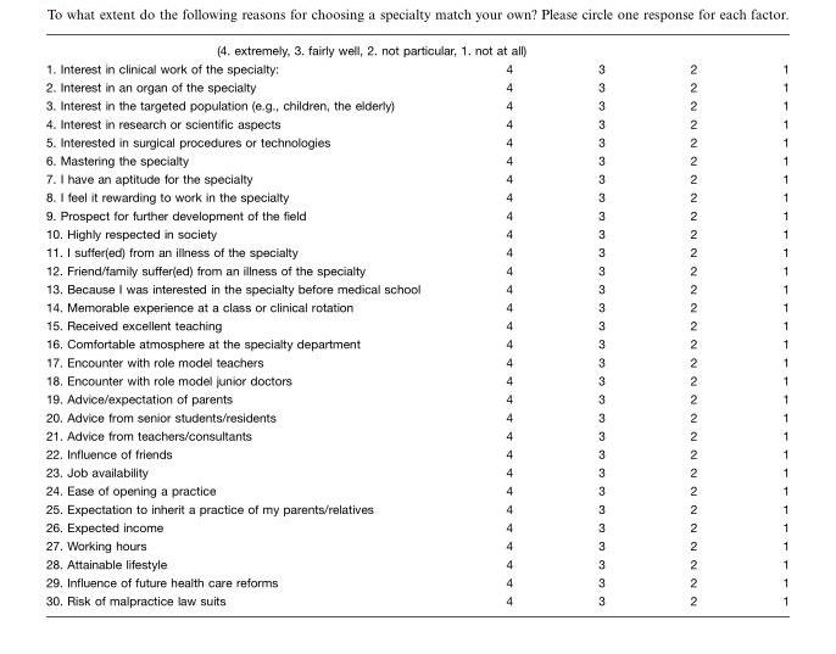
<table><tbody><tr><td colspan="5">(4. extremely, 3. fairly well, 2. not particular, 1. not at all)</td></tr><tr><td>1. Interest in clinical work of the specialty:</td><td>4</td><td>3</td><td>2</td><td>1</td></tr><tr><td>2. Interest in an organ of the specialty</td><td>4</td><td>3</td><td>2</td><td>1</td></tr><tr><td>3. Interest in the targeted population (e.g., children, the elderly)</td><td>4</td><td>3</td><td>2</td><td>1</td></tr><tr><td>4. Interest in research or scientific aspects</td><td>4</td><td>3</td><td>2</td><td>1</td></tr><tr><td>5. Interested in surgical procedures or technologies</td><td>4</td><td>3</td><td>2</td><td>1</td></tr><tr><td>6. Mastering the specialty</td><td>4</td><td>3</td><td>2</td><td>1</td></tr><tr><td>7. I have an aptitude for the specialty</td><td>4</td><td>3</td><td>2</td><td>1</td></tr><tr><td>8. I feel it rewarding to work in the specialty</td><td>4</td><td>3</td><td>2</td><td>1</td></tr><tr><td>9. Prospect for further development of the field</td><td>4</td><td>3</td><td>2</td><td>1</td></tr><tr><td>10. Highly respected in society</td><td>4</td><td>3</td><td>2</td><td>1</td></tr><tr><td>11. I suffer(ed) from an illness of the specialty</td><td>4</td><td>3</td><td>2</td><td>1</td></tr><tr><td>12. Friend/family suffer(ed) from an illness of the specialty</td><td>4</td><td>3</td><td>2</td><td>1</td></tr><tr><td>13. Because I was interested in the specialty before medical school</td><td>4</td><td>3</td><td>2</td><td>1</td></tr><tr><td>14. Memorable experience at a class or clinical rotation</td><td>4</td><td>3</td><td>2</td><td>1</td></tr><tr><td>15. Received excellent teaching</td><td>4</td><td>3</td><td>2</td><td>1</td></tr><tr><td>16. Comfortable atmosphere at the specialty department</td><td>4</td><td>3</td><td>2</td><td>1</td></tr><tr><td>17. Encounter with role model teachers</td><td>4</td><td>3</td><td>2</td><td>1</td></tr><tr><td>18. Encounter with role model junior doctors</td><td>4</td><td>3</td><td>2</td><td>1</td></tr><tr><td>19. Advice/expectation of parents</td><td>4</td><td>3</td><td>2</td><td>1</td></tr><tr><td>20. Advice from senior students/residents</td><td>4</td><td>3</td><td>2</td><td>1</td></tr><tr><td>21. Advice from teachers/consultants</td><td>4</td><td>3</td><td>2</td><td>1</td></tr><tr><td>22. Influence of friends</td><td>4</td><td>3</td><td>2</td><td>1</td></tr><tr><td>23. Job availability</td><td>4</td><td>3</td><td>2</td><td>1</td></tr><tr><td>24. Ease of opening a practice</td><td>4</td><td>3</td><td>2</td><td>1</td></tr><tr><td>25. Expectation to inherit a practice of my parents/relatives</td><td>4</td><td>3</td><td>2</td><td>1</td></tr><tr><td>26. Expected income</td><td>4</td><td>3</td><td>2</td><td>1</td></tr><tr><td>27. Working hours</td><td>4</td><td>3</td><td>2</td><td>1</td></tr><tr><td>28. Attainable lifestyle</td><td>4</td><td>3</td><td>2</td><td>1</td></tr><tr><td>29. Influence of future health care reforms</td><td>4</td><td>3</td><td>2</td><td>1</td></tr><tr><td>30. Risk of malpractice law suits</td><td>4</td><td>3</td><td>2</td><td>1</td></tr></tbody></table>